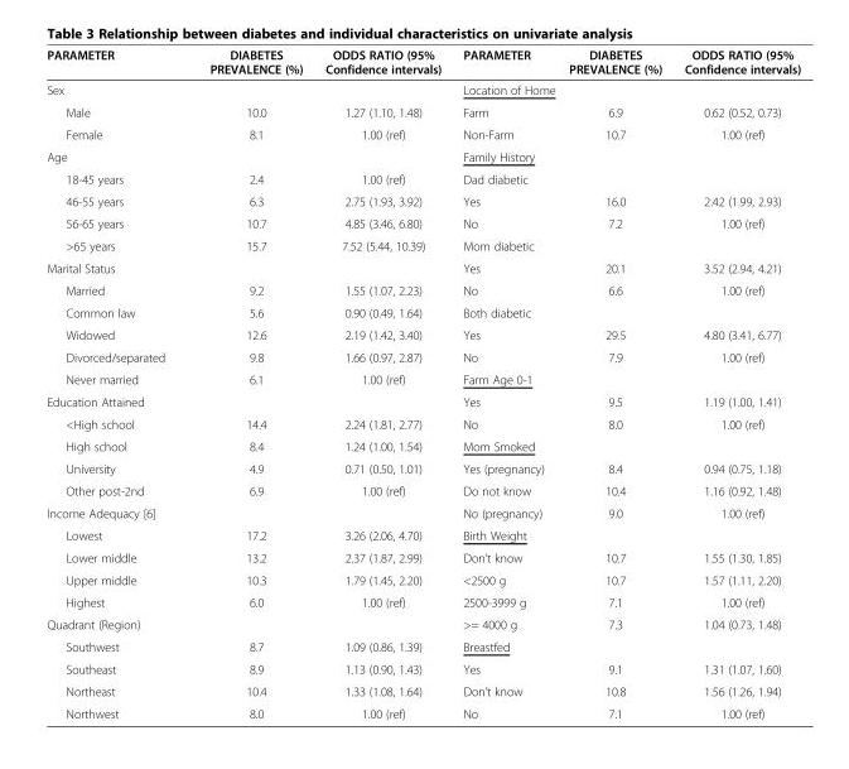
<table><thead><tr><td>PARAMETER</td><td>DIABETES PREVALENCE (%)</td><td>ODDS RATIO (95% Confidence intervals)</td><td>PARAMETER</td><td>DIABETES PREVALENCE (%)</td><td>ODDS RATIO (95% Confidence intervals)</td></tr></thead><tbody><tr><td>Sex</td><td></td><td></td><td>Location of Home</td><td></td><td></td></tr><tr><td>Male</td><td>10.0</td><td>1.27 (1.10, 1.48)</td><td>Farm</td><td>6.9</td><td>0.62 (0.52, 0.73)</td></tr><tr><td>Female</td><td>8.1</td><td>1.00 (ref)</td><td>Non-Farm</td><td>10.7</td><td>1.00 (ref)</td></tr><tr><td>Age</td><td></td><td></td><td>Family History</td><td></td><td></td></tr><tr><td>18-45 years</td><td>2.4</td><td>1.00 (ref)</td><td>Dad diabetic</td><td></td><td></td></tr><tr><td>46-55 years</td><td>6.3</td><td>2.75 (1.93, 3.92)</td><td>Yes</td><td>16.0</td><td>2.42 (1.99, 2.93)</td></tr><tr><td>56-65 years</td><td>10.7</td><td>4.85 (3.46, 6.80)</td><td>No</td><td>7.2</td><td>1.00 (ref)</td></tr><tr><td>&gt;65 years</td><td>15.7</td><td>7.52 (5.44, 10.39)</td><td>Mom diabetic</td><td></td><td></td></tr><tr><td>Marital Status</td><td></td><td></td><td>Yes</td><td>20.1</td><td>3.52 (2.94, 4.21)</td></tr><tr><td>Married</td><td>9.2</td><td>1.55 (1.07, 2.23)</td><td>No</td><td>6.6</td><td>1.00 (ref)</td></tr><tr><td>Common law</td><td>5.6</td><td>0.90 (0.49, 1.64)</td><td>Both diabetic</td><td></td><td></td></tr><tr><td>Widowed</td><td>12.6</td><td>2.19 (1.42, 3.40)</td><td>Yes</td><td>29.5</td><td>4.80 (3.41, 6.77)</td></tr><tr><td>Divorced/separated</td><td>9.8</td><td>1.66 (0.97, 2.87)</td><td>No</td><td>7.9</td><td>1.00 (ref)</td></tr><tr><td>Never married</td><td>6.1</td><td>1.00 (ref)</td><td>Farm Age 0-1</td><td></td><td></td></tr><tr><td>Education Attained</td><td></td><td></td><td>Yes</td><td>9.5</td><td>1.19 (1.00, 1.41)</td></tr><tr><td>&lt;High school</td><td>14.4</td><td>2.24 (1.81, 2.77)</td><td>No</td><td>8.0</td><td>1.00 (ref)</td></tr><tr><td>High school</td><td>8.4</td><td>1.24 (1.00, 1.54)</td><td>Mom Smoked</td><td></td><td></td></tr><tr><td>University</td><td>4.9</td><td>0.71 (0.50, 1.01)</td><td>Yes (pregnancy)</td><td>8.4</td><td>0.94 (0.75, 1.18)</td></tr><tr><td>Other post-2nd</td><td>6.9</td><td>1.00 (ref)</td><td>Do not know</td><td>10.4</td><td>1.16 (0.92, 1.48)</td></tr><tr><td>Income Adequacy [6]</td><td></td><td></td><td>No (pregnancy)</td><td>9.0</td><td>1.00 (ref)</td></tr><tr><td>Lowest</td><td>17.2</td><td>3.26 (2.06, 4.70)</td><td>Birth Weight</td><td></td><td></td></tr><tr><td>Lower middle</td><td>13.2</td><td>2.37 (1.87, 2.99)</td><td>Don’t know</td><td>10.7</td><td>1.55 (1.30, 1.85)</td></tr><tr><td>Upper middle</td><td>10.3</td><td>1.79 (1.45, 2.20)</td><td>&lt;2500 g</td><td>10.7</td><td>1.57 (1.11, 2.20)</td></tr><tr><td>Highest</td><td>6.0</td><td>1.00 (ref)</td><td>2500-3999 g</td><td>7.1</td><td>1.00 (ref)</td></tr><tr><td>Quadrant (Region)</td><td></td><td></td><td>&gt;= 4000 g</td><td>7.3</td><td>1.04 (0.73, 1.48)</td></tr><tr><td>Southwest</td><td>8.7</td><td>1.09 (0.86, 1.39)</td><td>Breastfed</td><td></td><td></td></tr><tr><td>Southeast</td><td>8.9</td><td>1.13 (0.90, 1.43)</td><td>Yes</td><td>9.1</td><td>1.31 (1.07, 1.60)</td></tr><tr><td>Northeast</td><td>10.4</td><td>1.33 (1.08, 1.64)</td><td>Don’t know</td><td>10.8</td><td>1.56 (1.26, 1.94)</td></tr><tr><td>Northwest</td><td>8.0</td><td>1.00 (ref)</td><td>No</td><td>7.1</td><td>1.00 (ref)</td></tr></tbody></table>